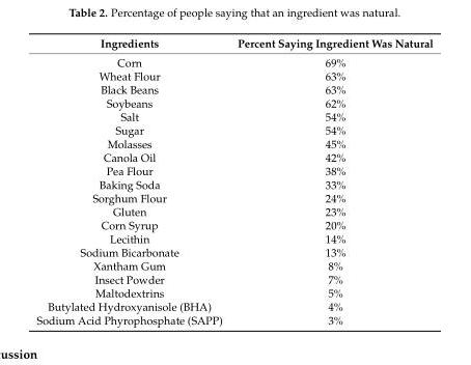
<table><thead><tr><td>Ingredients</td><td>Percent Saying Ingredient Was Natural</td></tr></thead><tbody><tr><td>Corn</td><td>69%</td></tr><tr><td>Wheat Flour</td><td>63%</td></tr><tr><td>Black Beans</td><td>63%</td></tr><tr><td>Soybeans</td><td>62%</td></tr><tr><td>Salt</td><td>54%</td></tr><tr><td>Sugar</td><td>54%</td></tr><tr><td>Molasses</td><td>45%</td></tr><tr><td>Canola Oil</td><td>42%</td></tr><tr><td>Pea Flour</td><td>38%</td></tr><tr><td>Baking Soda</td><td>33%</td></tr><tr><td>Sorghum Flour</td><td>24%</td></tr><tr><td>Gluten</td><td>23%</td></tr><tr><td>Corn Syrup</td><td>20%</td></tr><tr><td>Lecithin</td><td>14%</td></tr><tr><td>Sodium Bicarbonate</td><td>13%</td></tr><tr><td>Xantham Gum</td><td>8%</td></tr><tr><td>Insect Powder</td><td>7%</td></tr><tr><td>Maltodextrins</td><td>5%</td></tr><tr><td>Butylated Hydroxyanisole (BHA)</td><td>4%</td></tr><tr><td>Sodium Acid Phyrophosphate (SAPP)</td><td>3%</td></tr></tbody></table>